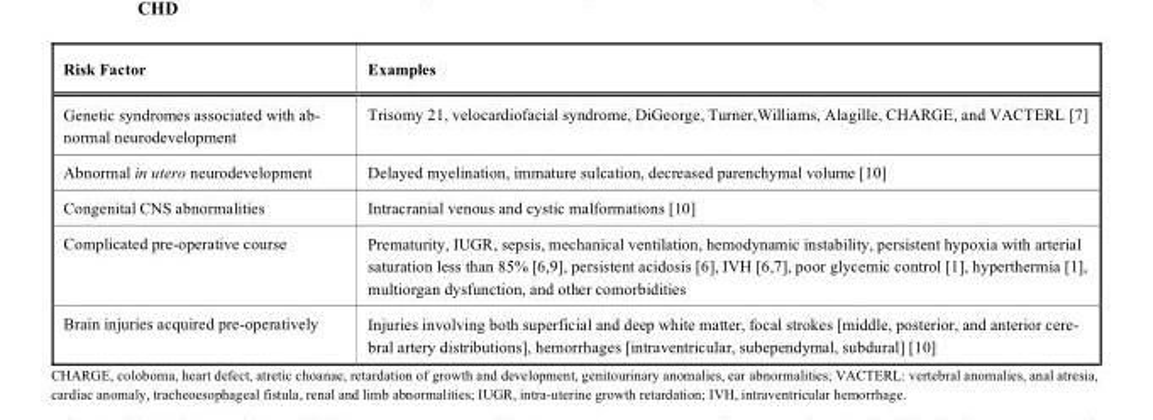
<table><thead><tr><td>Risk Factor</td><td>Examples</td></tr></thead><tbody><tr><td>Genetic syndromes associated with ab- normal neurodevelopment</td><td>Trisomy 21, velocardiofacial syndrome, DiGeorge, Turner,Williams, Alagille, CHARGE, and VACTERL [7]</td></tr><tr><td>Abnormal in utero neurodevelopment</td><td>Delayed myelination, immature sulcation, decreased parenchymal volume [10]</td></tr><tr><td>Congenital CNS abnormalities</td><td>Intracranial venous and cystic malformations [10]</td></tr><tr><td>Complicated pre-operative course</td><td>Prematurity, IUGR, sepsis, mechanical ventilation, hemodynamic instability, persistent hypoxia with arterial saturation less than 85% [6,9], persistent acidosis [6], IVH [6,7], poor glycemic control [1], hyperthermia [1], multiorgan dysfunction, and other comorbidities</td></tr><tr><td>Brain injuries acquired pre-operatively</td><td>Injuries involving both superficial and deep white matter, focal strokes [middle, posterior, and anterior cere- bral artery distributions], hemorrhages [intraventricular, subependymal, subdural] [10]</td></tr></tbody></table>